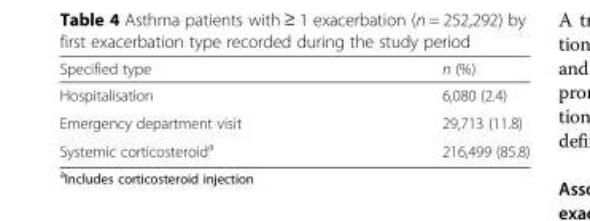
<table><thead><tr><td>Specified type</td><td>n (%)</td></tr></thead><tbody><tr><td>Hospitalisation</td><td>6,080 (2.4)</td></tr><tr><td>Emergency department visit</td><td>29,713 (11.8)</td></tr><tr><td>Systemic corticosteroid<sup>a</sup></td><td>216,499 (85.8)</td></tr></tbody></table>